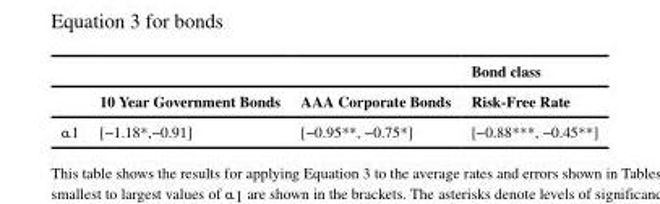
<table><thead><tr><td rowspan="2"></td><td rowspan="2">10 Year Government Bonds</td><td rowspan="2">AAA Corporate Bonds</td><td rowspan="2">Bond class Risk-Free Rate</td></tr><tr></tr></thead><tbody><tr><td>α1</td><td>[−1.18*,−0.91]</td><td>[−0.95**, −0.75*]</td><td>[−0.88***, −0.45**]</td></tr></tbody></table>